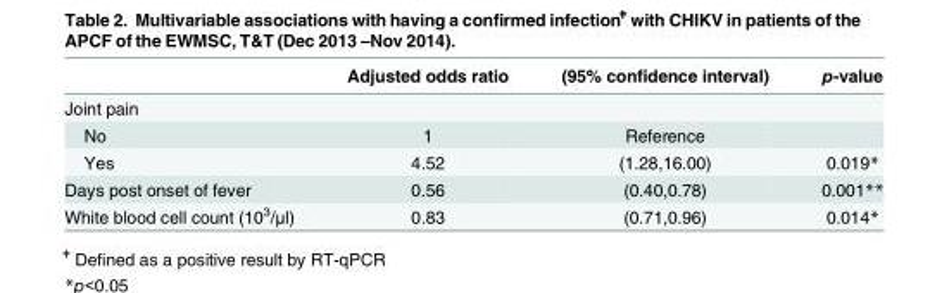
<table><thead><tr><td></td><td>Adjusted odds ratio</td><td>(95% confidence interval)</td><td>p-value</td></tr></thead><tbody><tr><td colspan="4">Joint pain</td></tr><tr><td>No</td><td>1</td><td>Reference</td><td></td></tr><tr><td>Yes</td><td>4.52</td><td>(1.28,16.00)</td><td>0.019*</td></tr><tr><td>Days post onset of fever</td><td>0.56</td><td>(0.40,0.78)</td><td>0.001**</td></tr><tr><td>White blood cell count (10<sup>3</sup>/μl)</td><td>0.83</td><td>(0.71,0.96)</td><td>0.014*</td></tr></tbody></table>